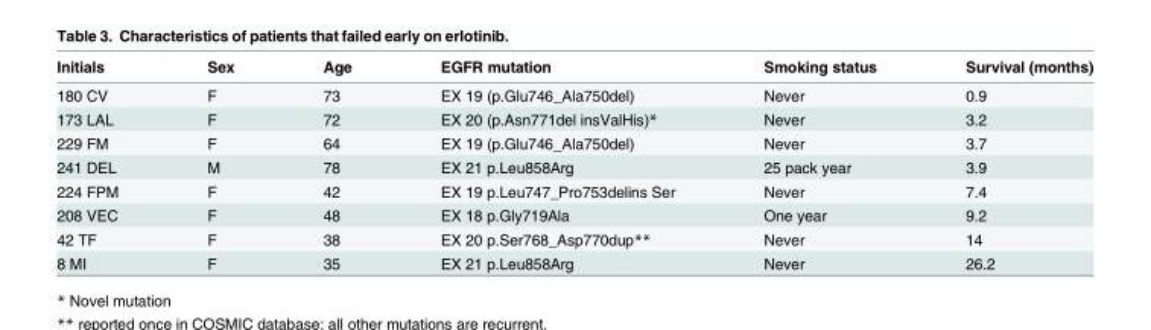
<table><thead><tr><td>Initials</td><td>Sex</td><td>Age</td><td>EGFR mutation</td><td>Smoking status</td><td>Survival (months)</td></tr></thead><tbody><tr><td>180 CV</td><td>F</td><td>73</td><td>EX 19 (p.Glu746_Ala750del)</td><td>Never</td><td>0.9</td></tr><tr><td>173 LAL</td><td>F</td><td>72</td><td>EX 20 (p.Asn771del insValHis)*</td><td>Never</td><td>3.2</td></tr><tr><td>229 FM</td><td>F</td><td>64</td><td>EX 19 (p.Glu746_Ala750del)</td><td>Never</td><td>3.7</td></tr><tr><td>241 DEL</td><td>M</td><td>78</td><td>EX 21 p.Leu858Arg</td><td>25 pack year</td><td>3.9</td></tr><tr><td>224 FPM</td><td>F</td><td>42</td><td>EX 19 p.Leu747_Pro753delins Ser</td><td>Never</td><td>7.4</td></tr><tr><td>208 VEC</td><td>F</td><td>48</td><td>EX 18 p.Gly719Ala</td><td>One year</td><td>9.2</td></tr><tr><td>42 TF</td><td>F</td><td>38</td><td>EX 20 p.Ser768_Asp770dup**</td><td>Never</td><td>14</td></tr><tr><td>8 MI</td><td>F</td><td>35</td><td>EX 21 p.Leu858Arg</td><td>Never</td><td>26.2</td></tr></tbody></table>